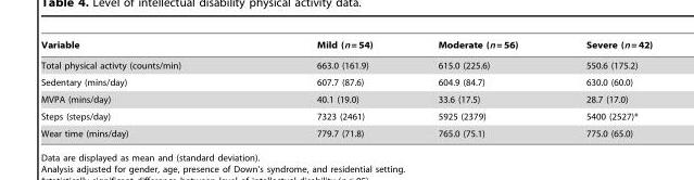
<table><thead><tr><td>Variable</td><td>Mild (n = 54)</td><td>Moderate (n = 56)</td><td>Severe (n = 42)</td></tr></thead><tbody><tr><td>Total physical activty (counts/min)</td><td>663.0 (161.9)</td><td>615.0 (225.6)</td><td>550.6 (175.2)</td></tr><tr><td>Sedentary (mins/day)</td><td>607.7 (87.6)</td><td>604.9 (84.7)</td><td>630.0 (60.0)</td></tr><tr><td>MVPA (mins/day)</td><td>40.1 (19.0)</td><td>33.6 (17.5)</td><td>28.7 (17.0)</td></tr><tr><td>Steps (steps/day)</td><td>7323 (2461)</td><td>5925 (2379)</td><td>5400 (2527)*</td></tr><tr><td>Wear time (mins/day)</td><td>779.7 (71.8)</td><td>765.0 (75.1)</td><td>775.0 (65.0)</td></tr></tbody></table>